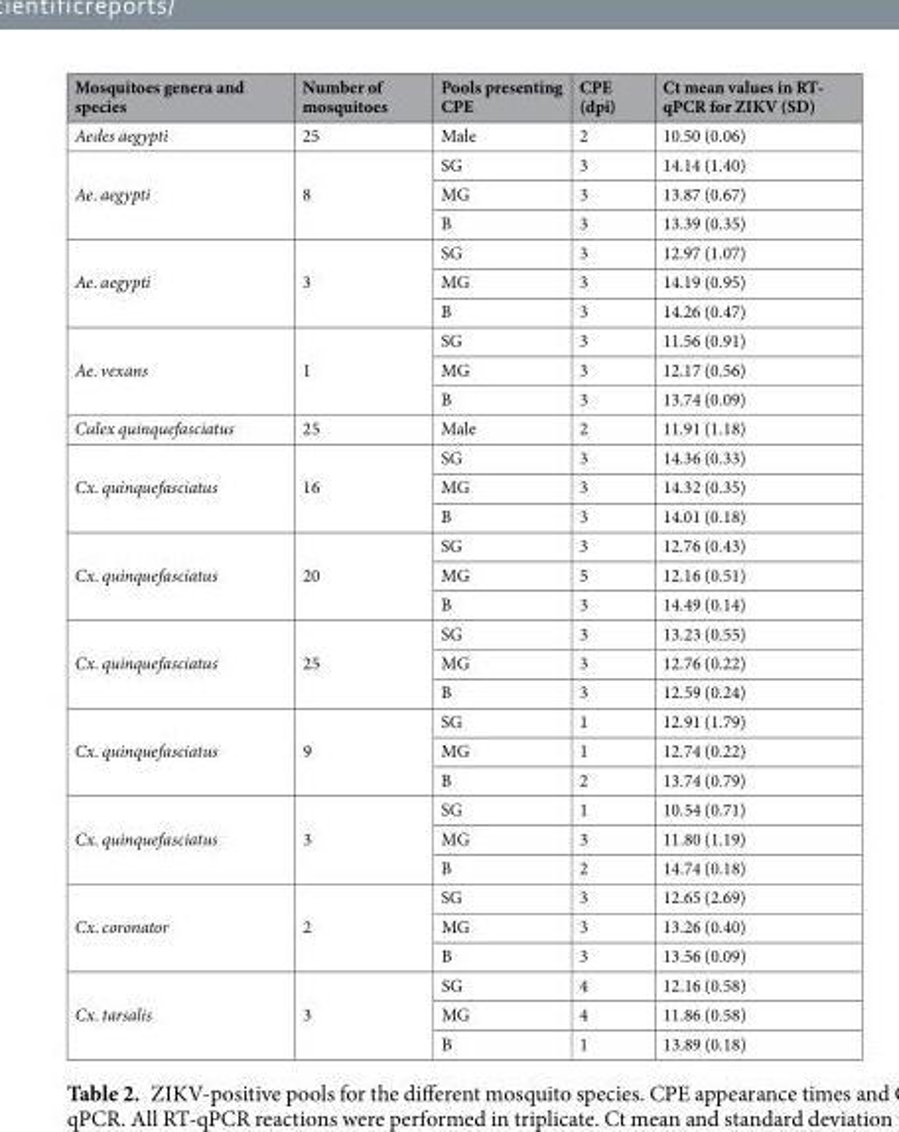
<table><thead><tr><td>Mosquitoes genera and species</td><td>Number of mosquitoes</td><td>Pools presenting CPE</td><td>CPE (dpi)</td><td>Ct mean values in RT- qPCR for ZIKV (SD)</td></tr></thead><tbody><tr><td>Aedes aegypti</td><td>25</td><td>Male</td><td>2</td><td>10.50 (0.06)</td></tr><tr><td rowspan="3">Ae. aegypti</td><td rowspan="3">8</td><td>SG</td><td>3</td><td>14.14 (1.40)</td></tr><tr><td>MG</td><td>3</td><td>13.87 (0.67)</td></tr><tr><td>B</td><td>3</td><td>13.39 (0.35)</td></tr><tr><td rowspan="3">Ae. aegypti</td><td rowspan="3">3</td><td>SG</td><td>3</td><td>12.97 (1.07)</td></tr><tr><td>MG</td><td>3</td><td>14.19 (0.95)</td></tr><tr><td>B</td><td>3</td><td>14.26 (0.47)</td></tr><tr><td rowspan="3">Ae. vexans</td><td rowspan="3">1</td><td>SG</td><td>3</td><td>11.56 (0.91)</td></tr><tr><td>MG</td><td>3</td><td>12.17 (0.56)</td></tr><tr><td>B</td><td>3</td><td>13.74 (0.09)</td></tr><tr><td>Culex quinquefasciatus</td><td>25</td><td>Male</td><td>2</td><td>11.91 (1.18)</td></tr><tr><td rowspan="3">Cx. quinquefasciatus</td><td rowspan="3">16</td><td>SG</td><td>3</td><td>14.36 (0.33)</td></tr><tr><td>MG</td><td>3</td><td>14.32 (0.35)</td></tr><tr><td>B</td><td>3</td><td>14.01 (0.18)</td></tr><tr><td rowspan="3">Cx. quinquefasciatus</td><td rowspan="3">20</td><td>SG</td><td>3</td><td>12.76 (0.43)</td></tr><tr><td>MG</td><td>5</td><td>12.16 (0.51)</td></tr><tr><td>B</td><td>3</td><td>14.49 (0.14)</td></tr><tr><td rowspan="3">Cx. quinquefasciatus</td><td rowspan="3">25</td><td>SG</td><td>3</td><td>13.23 (0.55)</td></tr><tr><td>MG</td><td>3</td><td>12.76 (0.22)</td></tr><tr><td>B</td><td>3</td><td>12.59 (0.24)</td></tr><tr><td rowspan="3">Cx. quinquefasciatus</td><td rowspan="3">9</td><td>SG</td><td>1</td><td>12.91 (1.79)</td></tr><tr><td>MG</td><td>1</td><td>12.74 (0.22)</td></tr><tr><td>B</td><td>2</td><td>13.74 (0.79)</td></tr><tr><td rowspan="3">Cx. quinquefasciatus</td><td rowspan="3">3</td><td>SG</td><td>1</td><td>10.54 (0.71)</td></tr><tr><td>MG</td><td>3</td><td>11.80 (1.19)</td></tr><tr><td>B</td><td>2</td><td>14.74 (0.18)</td></tr><tr><td rowspan="3">Cx. coronator</td><td rowspan="3">2</td><td>SG</td><td>3</td><td>12.65 (2.69)</td></tr><tr><td>MG</td><td>3</td><td>13.26 (0.40)</td></tr><tr><td>B</td><td>3</td><td>13.56 (0.09)</td></tr><tr><td rowspan="3">Cx. tarsalis</td><td rowspan="3">3</td><td>SG</td><td>4</td><td>12.16 (0.58)</td></tr><tr><td>MG</td><td>4</td><td>11.86 (0.58)</td></tr><tr><td>B</td><td>1</td><td>13.89 (0.18)</td></tr></tbody></table>